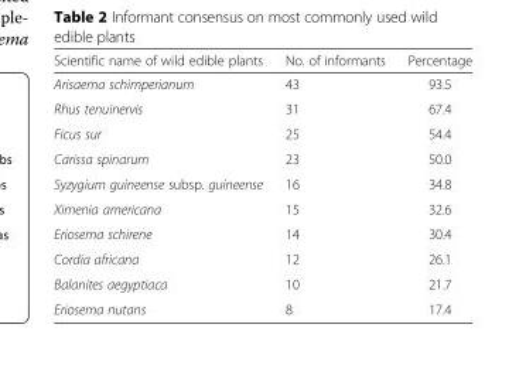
<table><thead><tr><td>Scientific name of wild edible plants</td><td>No. of informants</td><td>Percentage</td></tr></thead><tbody><tr><td>Arisaema schimperianum</td><td>43</td><td>93.5</td></tr><tr><td>Rhus tenuinervis</td><td>31</td><td>67.4</td></tr><tr><td>Ficus sur</td><td>25</td><td>54.4</td></tr><tr><td>Carissa spinarum</td><td>23</td><td>50.0</td></tr><tr><td>Syzygium guineense subsp. guineense</td><td>16</td><td>34.8</td></tr><tr><td>Ximenia americana</td><td>15</td><td>32.6</td></tr><tr><td>Eriosema schirene</td><td>14</td><td>30.4</td></tr><tr><td>Cordia africana</td><td>12</td><td>26.1</td></tr><tr><td>Balanites aegyptiaca</td><td>10</td><td>21.7</td></tr><tr><td>Eriosema nutans</td><td>8</td><td>17.4</td></tr></tbody></table>